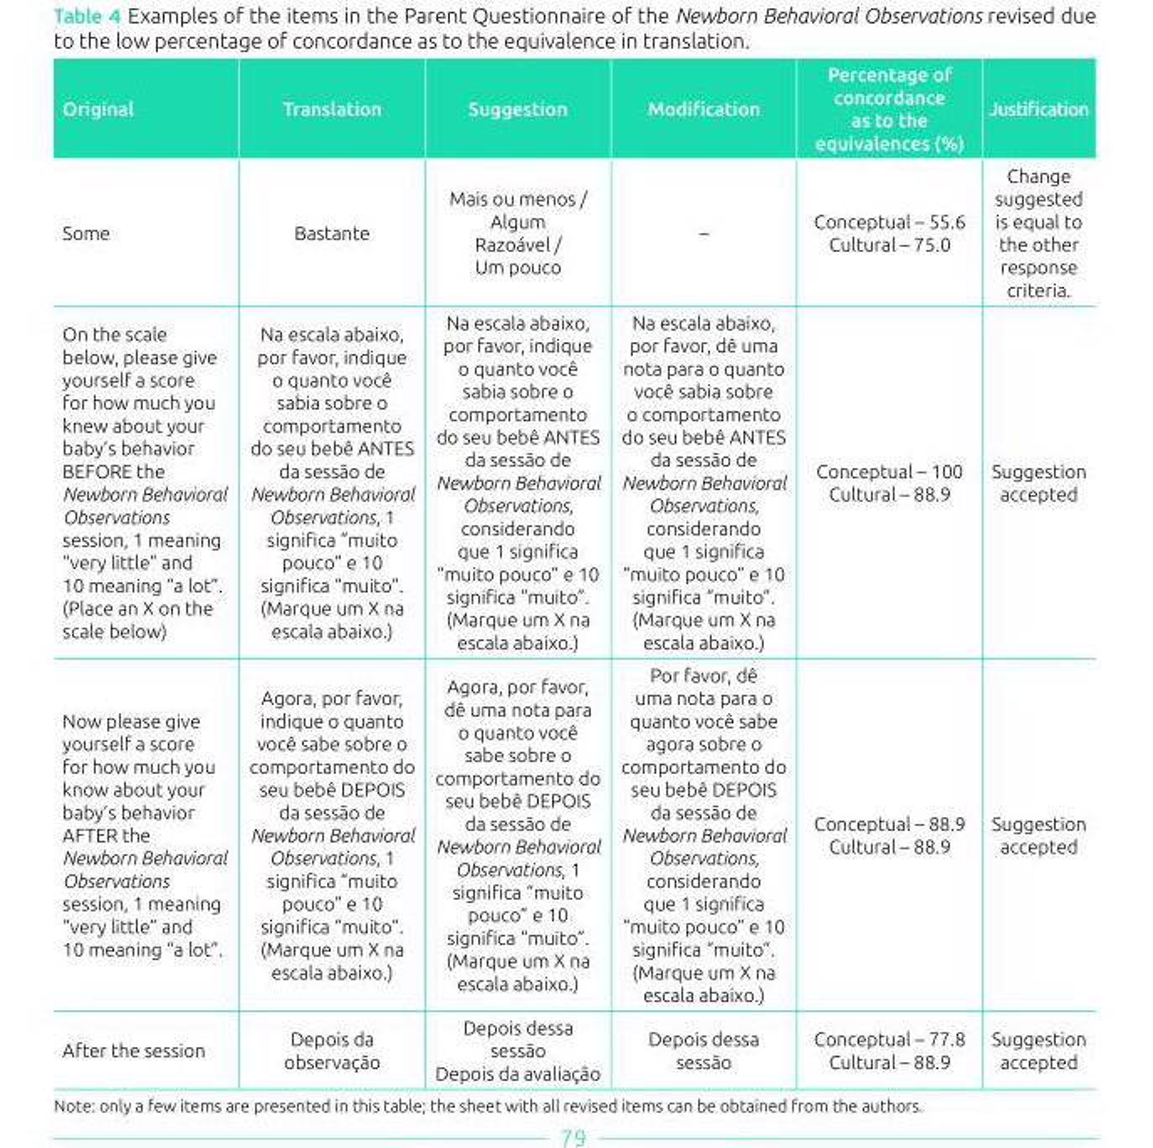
<table><thead><tr><td>Original</td><td>Translation</td><td>Suggestion</td><td>Modification</td><td>Percentage of concordance as to the equivalences (%)</td><td>Justification</td></tr></thead><tbody><tr><td>Some</td><td>Bastante</td><td>Mais ou menos / Algum Razoável / Um pouco</td><td>–</td><td>Conceptual – 55.6 Cultural – 75.0</td><td>Change suggested is equal to the other response criteria.</td></tr><tr><td>On the scale below, please give yourself a score for how much you knew about your baby’s behavior BEFORE the Newborn Behavioral Observations session, 1 meaning “very little” and 10 meaning “a lot”. (Place an X on the scale below)</td><td>Na escala abaixo, por favor, indique o quanto você sabia sobre o comportamento do seu bebê ANTES da sessão de Newborn Behavioral Observations, 1 significa “muito pouco” e 10 significa “muito”. (Marque um X na escala abaixo.)</td><td>Na escala abaixo, por favor, indique o quanto você sabia sobre o comportamento do seu bebê ANTES da sessão de Newborn Behavioral Observations, considerando que 1 significa “muito pouco” e 10 significa “muito”. (Marque um X na escala abaixo.)</td><td>Na escala abaixo, por favor, dê uma nota para o quanto você sabia sobre o comportamento do seu bebê ANTES da sessão de Newborn Behavioral Observations, considerando que 1 significa “muito pouco” e 10 significa “muito”. (Marque um X na escala abaixo.)</td><td>Conceptual – 100 Cultural – 88.9</td><td>Suggestion accepted</td></tr><tr><td>Now please give yourself a score for how much you know about your baby’s behavior AFTER the Newborn Behavioral Observations session, 1 meaning “very little” and 10 meaning “a lot”.</td><td>Agora, por favor, indique o quanto você sabe sobre o comportamento do seu bebê DEPOIS da sessão de Newborn Behavioral Observations, 1 significa “muito pouco” e 10 significa “muito”. (Marque um X na escala abaixo.)</td><td>Agora, por favor, dê uma nota para o quanto você sabe sobre o comportamento do seu bebê DEPOIS da sessão de Newborn Behavioral Observations, 1 significa “muito pouco” e 10 significa “muito”. (Marque um X na escala abaixo.)</td><td>Por favor, dê uma nota para o quanto você sabe agora sobre o comportamento do seu bebê DEPOIS da sessão de Newborn Behavioral Observations, considerando que 1 significa “muito pouco” e 10 significa “muito”. (Marque um X na escala abaixo.)</td><td>Conceptual – 88.9 Cultural – 88.9</td><td>Suggestion accepted</td></tr><tr><td>After the session</td><td>Depois da observação</td><td>Depois dessa sessão Depois da avaliação</td><td>Depois dessa sessão</td><td>Conceptual – 77.8 Cultural – 88.9</td><td>Suggestion accepted</td></tr></tbody></table>